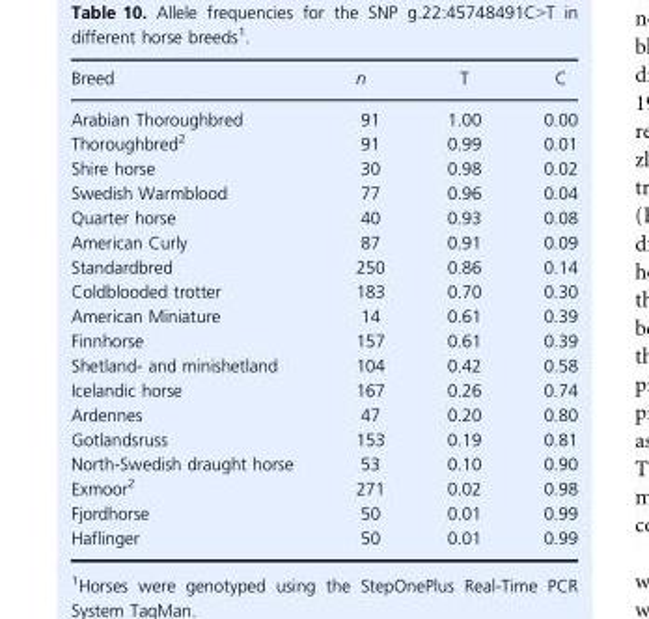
<table><thead><tr><td>Breed</td><td>n</td><td>T</td><td>C</td></tr></thead><tbody><tr><td>Arabian Thoroughbred</td><td>91</td><td>1.00</td><td>0.00</td></tr><tr><td>Thoroughbred2</td><td>91</td><td>0.99</td><td>0.01</td></tr><tr><td>Shire horse</td><td>30</td><td>0.98</td><td>0.02</td></tr><tr><td>Swedish Warmblood</td><td>77</td><td>0.96</td><td>0.04</td></tr><tr><td>Quarter horse</td><td>40</td><td>0.93</td><td>0.08</td></tr><tr><td>American Curly</td><td>87</td><td>0.91</td><td>0.09</td></tr><tr><td>Standardbred</td><td>250</td><td>0.86</td><td>0.14</td></tr><tr><td>Coldblooded trotter</td><td>183</td><td>0.70</td><td>0.30</td></tr><tr><td>American Miniature</td><td>14</td><td>0.61</td><td>0.39</td></tr><tr><td>Finnhorse</td><td>157</td><td>0.61</td><td>0.39</td></tr><tr><td>Shetland- and minishetland</td><td>104</td><td>0.42</td><td>0.58</td></tr><tr><td>Icelandic horse</td><td>167</td><td>0.26</td><td>0.74</td></tr><tr><td>Ardennes</td><td>47</td><td>0.20</td><td>0.80</td></tr><tr><td>Gotlandsruss</td><td>153</td><td>0.19</td><td>0.81</td></tr><tr><td>North-Swedish draught horse</td><td>53</td><td>0.10</td><td>0.90</td></tr><tr><td>Exmoor2</td><td>271</td><td>0.02</td><td>0.98</td></tr><tr><td>Fjordhorse</td><td>50</td><td>0.01</td><td>0.99</td></tr><tr><td>Haflinger</td><td>50</td><td>0.01</td><td>0.99</td></tr></tbody></table>